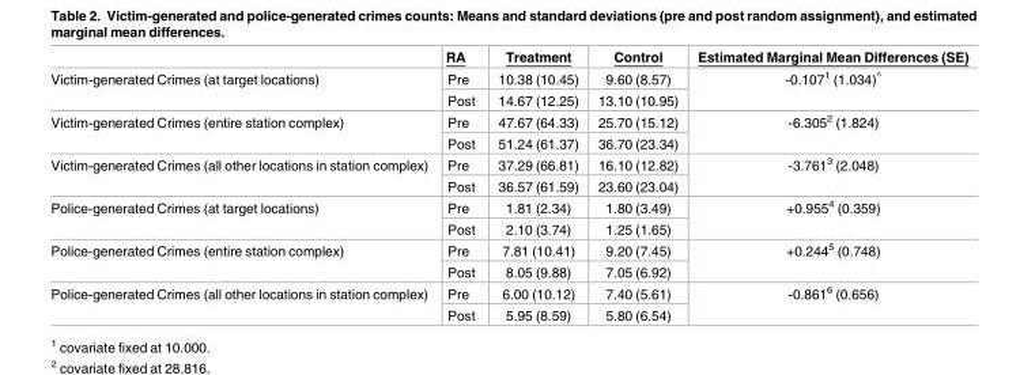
<table><thead><tr><td></td><td>RA</td><td>Treatment</td><td>Control</td><td>Estimated Marginal Mean Differences (SE)</td></tr></thead><tbody><tr><td rowspan="2">Victim-generated Crimes (at target locations)</td><td>Pre</td><td>10.38 (10.45)</td><td>9.60 (8.57)</td><td rowspan="2">-0.107<sup>1</sup> (1.034)<sup>^</sup></td></tr><tr><td>Post</td><td>14.67 (12.25)</td><td>13.10 (10.95)</td></tr><tr><td rowspan="2">Victim-generated Crimes (entire station complex)</td><td>Pre</td><td>47.67 (64.33)</td><td>25.70 (15.12)</td><td rowspan="2">-6.305<sup>2</sup> (1.824)</td></tr><tr><td>Post</td><td>51.24 (61.37)</td><td>36.70 (23.34)</td></tr><tr><td rowspan="2">Victim-generated Crimes (all other locations in station complex)</td><td>Pre</td><td>37.29 (66.81)</td><td>16.10 (12.82)</td><td rowspan="2">-3.761<sup>3</sup> (2.048)</td></tr><tr><td>Post</td><td>36.57 (61.59)</td><td>23.60 (23.04)</td></tr><tr><td rowspan="2">Police-generated Crimes (at target locations)</td><td>Pre</td><td>1.81 (2.34)</td><td>1.80 (3.49)</td><td rowspan="2">+0.955<sup>4</sup> (0.359)</td></tr><tr><td>Post</td><td>2.10 (3.74)</td><td>1.25 (1.65)</td></tr><tr><td rowspan="2">Police-generated Crimes (entire station complex)</td><td>Pre</td><td>7.81 (10.41)</td><td>9.20 (7.45)</td><td rowspan="2">+0.244<sup>5</sup> (0.748)</td></tr><tr><td>Post</td><td>8.05 (9.88)</td><td>7.05 (6.92)</td></tr><tr><td rowspan="2">Police-generated Crimes (all other locations in station complex)</td><td>Pre</td><td>6.00 (10.12)</td><td>7.40 (5.61)</td><td rowspan="2">-0.861<sup>6</sup> (0.656)</td></tr><tr><td>Post</td><td>5.95 (8.59)</td><td>5.80 (6.54)</td></tr></tbody></table>